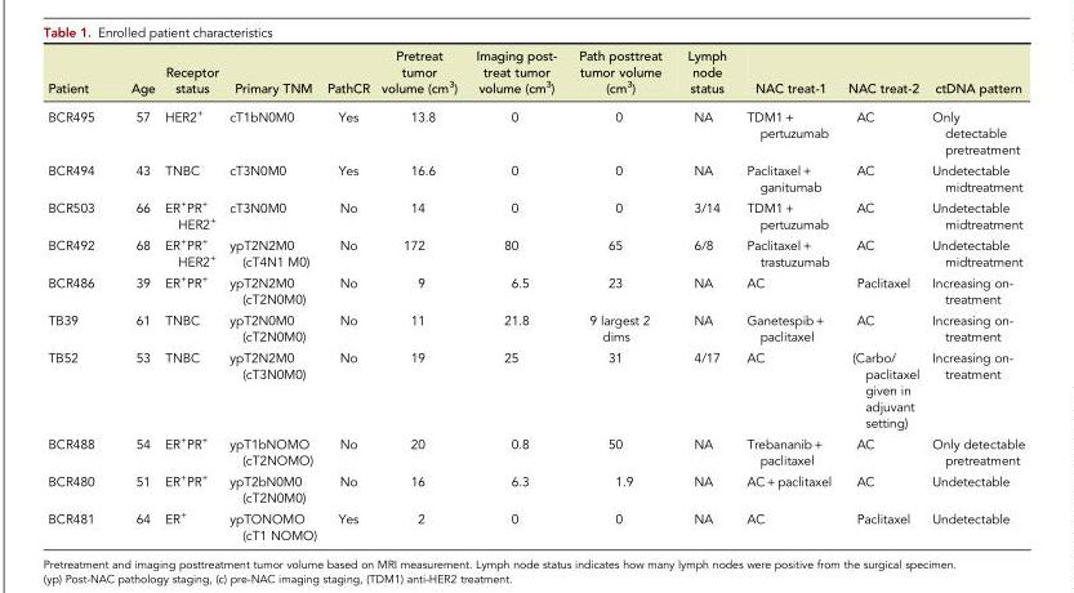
<table><thead><tr><td>Patient</td><td>Age</td><td>Receptor status</td><td>Primary TNM</td><td>PathCR</td><td>Pretreat tumor volume (cm<sup>3</sup>)</td><td>Imaging post- treat tumor volume (cm<sup>3</sup>)</td><td>Path posttreat tumor volume (cm<sup>3</sup>)</td><td>Lymph node status</td><td>NAC treat-1</td><td>NAC treat-2</td><td>ctDNA pattern</td></tr></thead><tbody><tr><td>BCR495</td><td>57</td><td>HER2<sup>+</sup></td><td>cT1bN0M0</td><td>Yes</td><td>13.8</td><td>0</td><td>0</td><td>NA</td><td>TDM1 + pertuzumab</td><td>AC</td><td>Only detectable pretreatment</td></tr><tr><td>BCR494</td><td>43</td><td>TNBC</td><td>cT3N0M0</td><td>Yes</td><td>16.6</td><td>0</td><td>0</td><td>NA</td><td>Paclitaxel + ganitumab</td><td>AC</td><td>Undetectable midtreatment</td></tr><tr><td>BCR503</td><td>66</td><td>ER<sup>+</sup>PR<sup>+</sup> HER2<sup>+</sup></td><td>cT3N0M0</td><td>No</td><td>14</td><td>0</td><td>0</td><td>3/14</td><td>TDM1 + pertuzumab</td><td>AC</td><td>Undetectable midtreatment</td></tr><tr><td>BCR492</td><td>68</td><td>ER<sup>+</sup>PR<sup>+</sup> HER2<sup>+</sup></td><td>ypT2N2M0 (cT4N1 M0)</td><td>No</td><td>172</td><td>80</td><td>65</td><td>6/8</td><td>Paclitaxel + trastuzumab</td><td>AC</td><td>Undetectable midtreatment</td></tr><tr><td>BCR486</td><td>39</td><td>ER<sup>+</sup>PR<sup>+</sup></td><td>ypT2N2M0 (cT2N0M0)</td><td>No</td><td>9</td><td>6.5</td><td>23</td><td>NA</td><td>AC</td><td>Paclitaxel</td><td>Increasing on- treatment</td></tr><tr><td>TB39</td><td>61</td><td>TNBC</td><td>ypT2N0M0 (cT2N0M0)</td><td>No</td><td>11</td><td>21.8</td><td>9 largest 2 dims</td><td>NA</td><td>Ganetespib + paclitaxel</td><td>AC</td><td>Increasing on- treatment</td></tr><tr><td>TB52</td><td>53</td><td>TNBC</td><td>ypT2N2M0 (cT3N0M0)</td><td>No</td><td>19</td><td>25</td><td>31</td><td>4/17</td><td>AC</td><td>(Carbo/ paclitaxel given in adjuvant setting)</td><td>Increasing on- treatment</td></tr><tr><td>BCR488</td><td>54</td><td>ER<sup>+</sup>PR<sup>+</sup></td><td>ypT1bNOMO (cT2NOMO)</td><td>No</td><td>20</td><td>0.8</td><td>50</td><td>NA</td><td>Trebananib + paclitaxel</td><td>AC</td><td>Only detectable pretreatment</td></tr><tr><td>BCR480</td><td>51</td><td>ER<sup>+</sup>PR<sup>+</sup></td><td>ypT2bN0M0 (cT2N0M0)</td><td>No</td><td>16</td><td>6.3</td><td>1.9</td><td>NA</td><td>AC + paclitaxel</td><td>AC</td><td>Undetectable</td></tr><tr><td>BCR481</td><td>64</td><td>ER<sup>+</sup></td><td>ypTONOMO (cT1 NOMO)</td><td>Yes</td><td>2</td><td>0</td><td>0</td><td>NA</td><td>AC</td><td>Paclitaxel</td><td>Undetectable</td></tr></tbody></table>